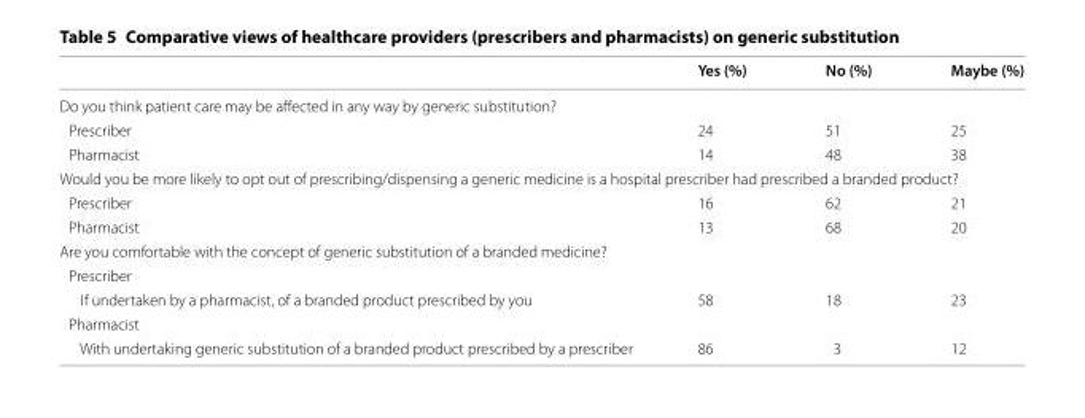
<table><thead><tr><td></td><td>Yes (%)</td><td>No (%)</td><td>Maybe (%)</td></tr></thead><tbody><tr><td colspan="4">Do you think patient care may be affected in any way by generic substitution?</td></tr><tr><td>Prescriber</td><td>24</td><td>51</td><td>25</td></tr><tr><td>Pharmacist</td><td>14</td><td>48</td><td>38</td></tr><tr><td colspan="4">Would you be more likely to opt out of prescribing/dispensing a generic medicine is a hospital prescriber had prescribed a branded product?</td></tr><tr><td>Prescriber</td><td>16</td><td>62</td><td>21</td></tr><tr><td>Pharmacist</td><td>13</td><td>68</td><td>20</td></tr><tr><td colspan="4">Are you comfortable with the concept of generic substitution of a branded medicine?</td></tr><tr><td colspan="4">Prescriber</td></tr><tr><td>If undertaken by a pharmacist, of a branded product prescribed by you</td><td>58</td><td>18</td><td>23</td></tr><tr><td colspan="4">Pharmacist</td></tr><tr><td>With undertaking generic substitution of a branded product prescribed by a prescriber</td><td>86</td><td>3</td><td>12</td></tr></tbody></table>